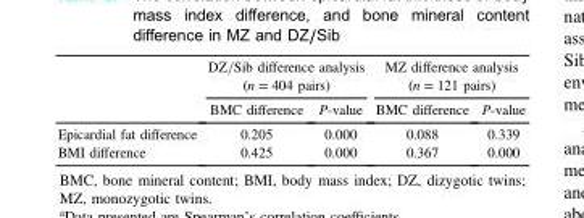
<table><thead><tr><td rowspan="2"></td><td colspan="2">DZ=Sib difference analysis (n = 404 pairs)</td><td colspan="2">MZ difference analysis (n = 121 pairs)</td></tr><tr><td>BMC difference</td><td>P-value</td><td>BMC difference</td><td>P-value</td></tr></thead><tbody><tr><td>Epicardial fat difference</td><td>0.205</td><td>0.000</td><td>0.088</td><td>0.339</td></tr><tr><td>BMI difference</td><td>0.425</td><td>0.000</td><td>0.367</td><td>0.000</td></tr></tbody></table>